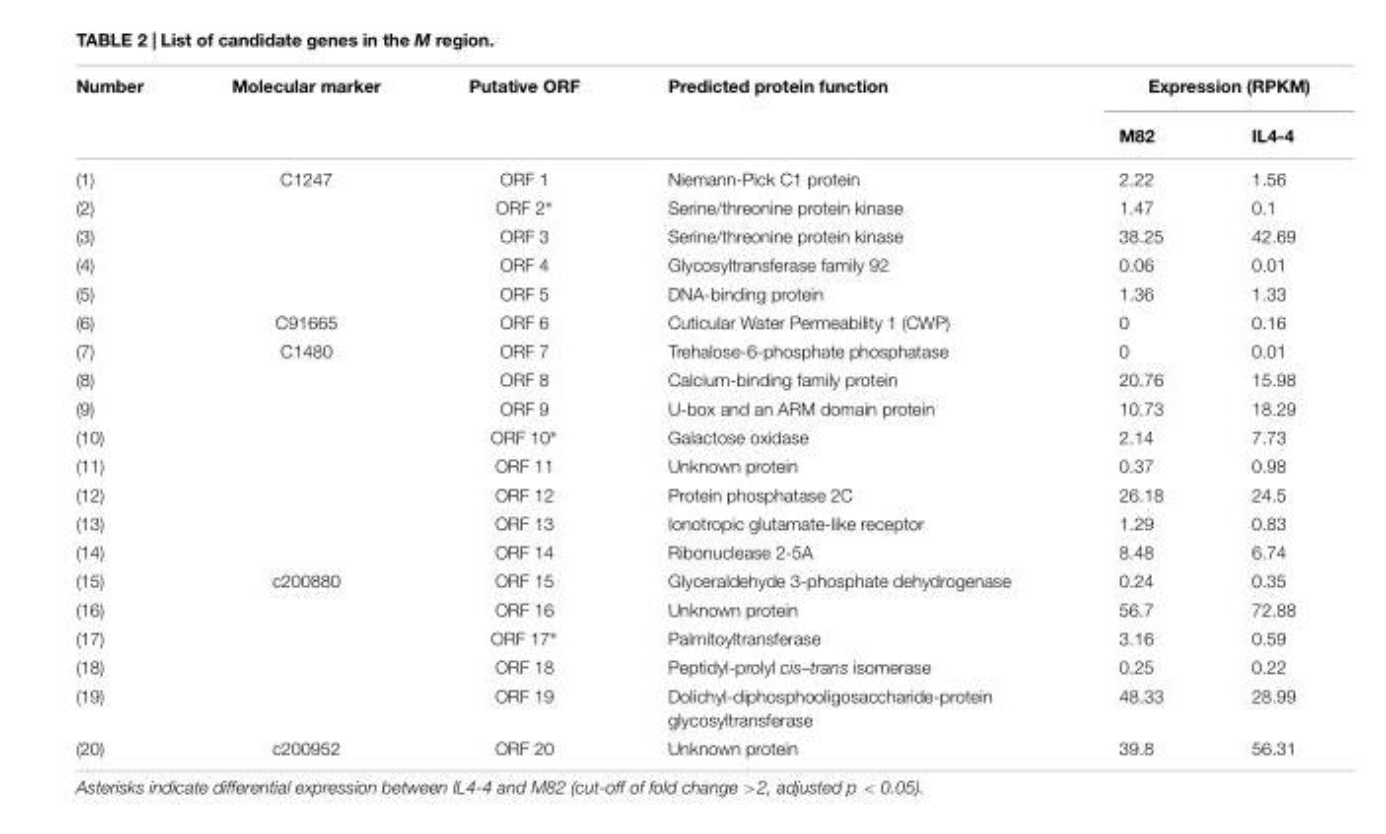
<table><thead><tr><td rowspan="2">Number</td><td rowspan="2">Molecular marker</td><td rowspan="2">Putative ORF</td><td rowspan="2">Predicted protein function</td><td colspan="2">Expression (RPKM)</td></tr><tr><td>M82</td><td>IL4-4</td></tr></thead><tbody><tr><td>(1)</td><td>C1247</td><td>ORF 1</td><td>Niemann-Pick C1 protein</td><td>2.22</td><td>1.56</td></tr><tr><td>(2)</td><td></td><td>ORF 2∗</td><td>Serine/threonine protein kinase</td><td>1.47</td><td>0.1</td></tr><tr><td>(3)</td><td></td><td>ORF 3</td><td>Serine/threonine protein kinase</td><td>38.25</td><td>42.69</td></tr><tr><td>(4)</td><td></td><td>ORF 4</td><td>Glycosyltransferase family 92</td><td>0.06</td><td>0.01</td></tr><tr><td>(5)</td><td></td><td>ORF 5</td><td>DNA-binding protein</td><td>1.36</td><td>1.33</td></tr><tr><td>(6)</td><td>C91665</td><td>ORF 6</td><td>Cuticular Water Permeability 1 (CWP)</td><td>0</td><td>0.16</td></tr><tr><td>(7)</td><td>C1480</td><td>ORF 7</td><td>Trehalose-6-phosphate phosphatase</td><td>0</td><td>0.01</td></tr><tr><td>(8)</td><td></td><td>ORF 8</td><td>Calcium-binding family protein</td><td>20.76</td><td>15.98</td></tr><tr><td>(9)</td><td></td><td>ORF 9</td><td>U-box and an ARM domain protein</td><td>10.73</td><td>18.29</td></tr><tr><td>(10)</td><td></td><td>ORF 10∗</td><td>Galactose oxidase</td><td>2.14</td><td>7.73</td></tr><tr><td>(11)</td><td></td><td>ORF 11</td><td>Unknown protein</td><td>0.37</td><td>0.98</td></tr><tr><td>(12)</td><td></td><td>ORF 12</td><td>Protein phosphatase 2C</td><td>26.18</td><td>24.5</td></tr><tr><td>(13)</td><td></td><td>ORF 13</td><td>Ionotropic glutamate-like receptor</td><td>1.29</td><td>0.83</td></tr><tr><td>(14)</td><td></td><td>ORF 14</td><td>Ribonuclease 2-5A</td><td>8.48</td><td>6.74</td></tr><tr><td>(15)</td><td>c200880</td><td>ORF 15</td><td>Glyceraldehyde 3-phosphate dehydrogenase</td><td>0.24</td><td>0.35</td></tr><tr><td>(16)</td><td></td><td>ORF 16</td><td>Unknown protein</td><td>56.7</td><td>72.88</td></tr><tr><td>(17)</td><td></td><td>ORF 17∗</td><td>Palmitoyltransferase</td><td>3.16</td><td>0.59</td></tr><tr><td>(18)</td><td></td><td>ORF 18</td><td>Peptidyl-prolyl cis–trans isomerase</td><td>0.25</td><td>0.22</td></tr><tr><td>(19)</td><td></td><td>ORF 19</td><td>Dolichyl-diphosphooligosaccharide-protein glycosyltransferase</td><td>48.33</td><td>28.99</td></tr><tr><td>(20)</td><td>c200952</td><td>ORF 20</td><td>Unknown protein</td><td>39.8</td><td>56.31</td></tr></tbody></table>